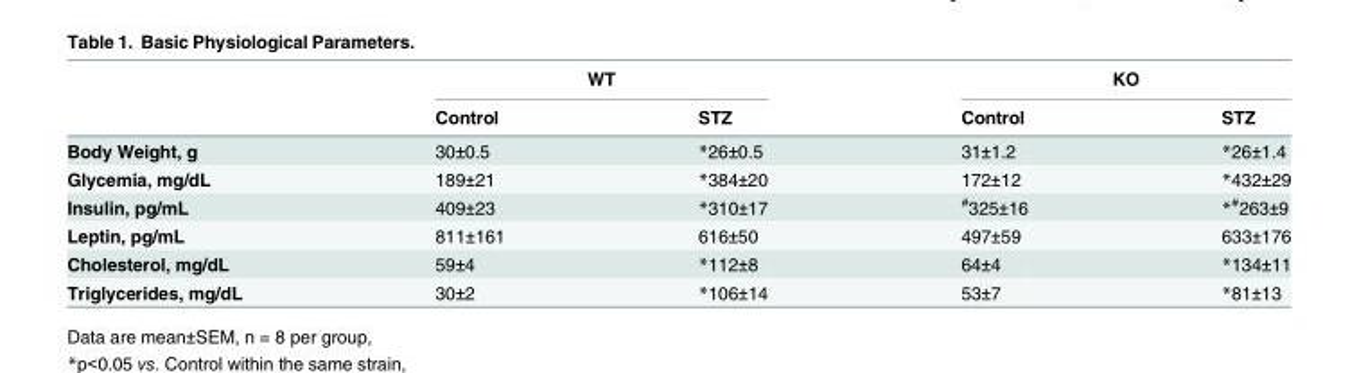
<table><thead><tr><td rowspan="2"></td><td colspan="2">WT</td><td colspan="2">KO</td></tr><tr><td>Control</td><td>STZ</td><td>Control</td><td>STZ</td></tr></thead><tbody><tr><td>Body Weight, g</td><td>30±0.5</td><td>*26±0.5</td><td>31±1.2</td><td>*26±1.4</td></tr><tr><td>Glycemia, mg/dL</td><td>189±21</td><td>*384±20</td><td>172±12</td><td>*432±29</td></tr><tr><td>Insulin, pg/mL</td><td>409±23</td><td>*310±17</td><td><sup>#</sup>325±16</td><td>*<sup>#</sup>263±9</td></tr><tr><td>Leptin, pg/mL</td><td>811±161</td><td>616±50</td><td>497±59</td><td>633±176</td></tr><tr><td>Cholesterol, mg/dL</td><td>59±4</td><td>*112±8</td><td>64±4</td><td>*134±11</td></tr><tr><td>Triglycerides, mg/dL</td><td>30±2</td><td>*106±14</td><td>53±7</td><td>*81±13</td></tr></tbody></table>